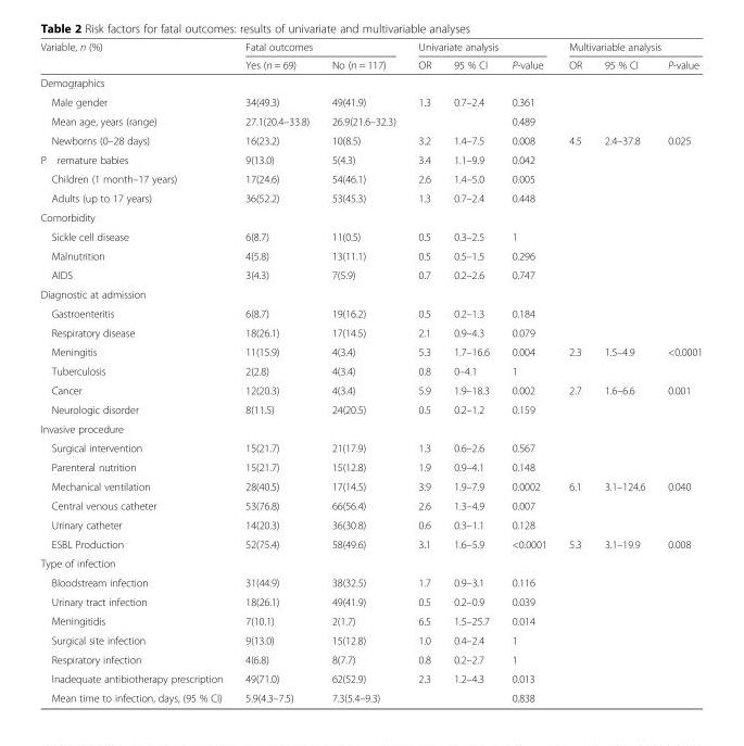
<table><thead><tr><td rowspan="2">Variable, n (%)</td><td colspan="2">Fatal outcomes</td><td colspan="3">Univariate analysis</td><td colspan="3">Multivariable analysis</td></tr><tr><td>Yes (n = 69)</td><td>No (n = 117)</td><td>OR</td><td>95 % CI</td><td>P-value</td><td>OR</td><td>95 % CI</td><td>P-value</td></tr></thead><tbody><tr><td colspan="9">Demographics</td></tr><tr><td>Male gender</td><td>34(49.3)</td><td>49(41.9)</td><td>1.3</td><td>0.7–2.4</td><td>0.361</td><td></td><td></td><td></td></tr><tr><td>Mean age, years (range)</td><td>27.1(20.4–33.8)</td><td>26.9(21.6–32.3)</td><td></td><td></td><td>0.489</td><td></td><td></td><td></td></tr><tr><td>Newborns (0–28 days)</td><td>16(23.2)</td><td>10(8.5)</td><td>3.2</td><td>1.4–7.5</td><td>0.008</td><td>4.5</td><td>2.4–37.8</td><td>0.025</td></tr><tr><td>P remature babies</td><td>9(13.0)</td><td>5(4.3)</td><td>3.4</td><td>1.1–9.9</td><td>0.042</td><td></td><td></td><td></td></tr><tr><td>Children (1 month–17 years)</td><td>17(24.6)</td><td>54(46.1)</td><td>2.6</td><td>1.4–5.0</td><td>0.005</td><td></td><td></td><td></td></tr><tr><td>Adults (up to 17 years)</td><td>36(52.2)</td><td>53(45.3)</td><td>1.3</td><td>0.7–2.4</td><td>0.448</td><td></td><td></td><td></td></tr><tr><td colspan="9">Comorbidity</td></tr><tr><td>Sickle cell disease</td><td>6(8.7)</td><td>11(0.5)</td><td>0.5</td><td>0.3–2.5</td><td>1</td><td></td><td></td><td></td></tr><tr><td>Malnutrition</td><td>4(5.8)</td><td>13(11.1)</td><td>0.5</td><td>0.5–1.5</td><td>0.296</td><td rowspan="2"></td><td rowspan="2"></td><td rowspan="2"></td></tr><tr><td>AIDS</td><td>3(4.3)</td><td>7(5.9)</td><td>0.7</td><td>0.2–2.6</td><td>0.747</td></tr><tr><td colspan="9">Diagnostic at admission</td></tr><tr><td>Gastroenteritis</td><td>6(8.7)</td><td>19(16.2)</td><td>0.5</td><td>0.2–1.3</td><td>0.184</td><td></td><td></td><td></td></tr><tr><td>Respiratory disease</td><td>18(26.1)</td><td>17(14.5)</td><td>2.1</td><td>0.9–4.3</td><td>0.079</td><td></td><td></td><td></td></tr><tr><td>Meningitis</td><td>11(15.9)</td><td>4(3.4)</td><td>5.3</td><td>1.7–16.6</td><td>0.004</td><td>2.3</td><td>1.5–4.9</td><td>&lt;0.0001</td></tr><tr><td>Tuberculosis</td><td>2(2.8)</td><td>4(3.4)</td><td>0.8</td><td>0–4.1</td><td>1</td><td></td><td></td><td></td></tr><tr><td>Cancer</td><td>12(20.3)</td><td>4(3.4)</td><td>5.9</td><td>1.9–18.3</td><td>0.002</td><td>2.7</td><td>1.6–6.6</td><td>0.001</td></tr><tr><td>Neurologic disorder</td><td>8(11.5)</td><td>24(20.5)</td><td>0.5</td><td>0.2–1.2</td><td>0.159</td><td></td><td></td><td></td></tr><tr><td colspan="9">Invasive procedure</td></tr><tr><td>Surgical intervention</td><td>15(21.7)</td><td>21(17.9)</td><td>1.3</td><td>0.6–2.6</td><td>0.567</td><td></td><td></td><td></td></tr><tr><td>Parenteral nutrition</td><td>15(21.7)</td><td>15(12.8)</td><td>1.9</td><td>0.9–4.1</td><td>0.148</td><td></td><td></td><td></td></tr><tr><td>Mechanical ventilation</td><td>28(40.5)</td><td>17(14.5)</td><td>3.9</td><td>1.9–7.9</td><td>0.0002</td><td>6.1</td><td>3.1–124.6</td><td>0.040</td></tr><tr><td>Central venous catheter</td><td>53(76.8)</td><td>66(56.4)</td><td>2.6</td><td>1.3–4.9</td><td>0.007</td><td></td><td></td><td></td></tr><tr><td>Urinary catheter</td><td>14(20.3)</td><td>36(30.8)</td><td>0.6</td><td>0.3–1.1</td><td>0.128</td><td></td><td></td><td></td></tr><tr><td>ESBL Production</td><td>52(75.4)</td><td>58(49.6)</td><td>3.1</td><td>1.6–5.9</td><td>&lt;0.0001</td><td>5.3</td><td>3.1–19.9</td><td>0.008</td></tr><tr><td colspan="6">Type of infection</td><td rowspan="2"></td><td rowspan="2"></td><td rowspan="2"></td></tr><tr><td>Bloodstream infection</td><td>31(44.9)</td><td>38(32.5)</td><td>1.7</td><td>0.9–3.1</td><td>0.116</td></tr><tr><td>Urinary tract infection</td><td>18(26.1)</td><td>49(41.9)</td><td>0.5</td><td>0.2–0.9</td><td>0.039</td><td></td><td></td><td></td></tr><tr><td>Meningitidis</td><td>7(10.1)</td><td>2(1.7)</td><td>6.5</td><td>1.5–25.7</td><td>0.014</td><td></td><td></td><td></td></tr><tr><td>Surgical site infection</td><td>9(13.0)</td><td>15(12.8)</td><td>1.0</td><td>0.4–2.4</td><td>1</td><td></td><td></td><td></td></tr><tr><td>Respiratory infection</td><td>4(6.8)</td><td>8(7.7)</td><td>0.8</td><td>0.2–2.7</td><td>1</td><td></td><td></td><td></td></tr><tr><td>Inadequate antibiotherapy prescription</td><td>49(71.0)</td><td>62(52.9)</td><td>2.3</td><td>1.2–4.3</td><td>0.013</td><td></td><td></td><td></td></tr><tr><td>Mean time to infection, days, (95 % CI)</td><td>5.9(4.3–7.5)</td><td>7.3(5.4–9.3)</td><td></td><td></td><td>0.838</td><td></td><td></td><td></td></tr></tbody></table>